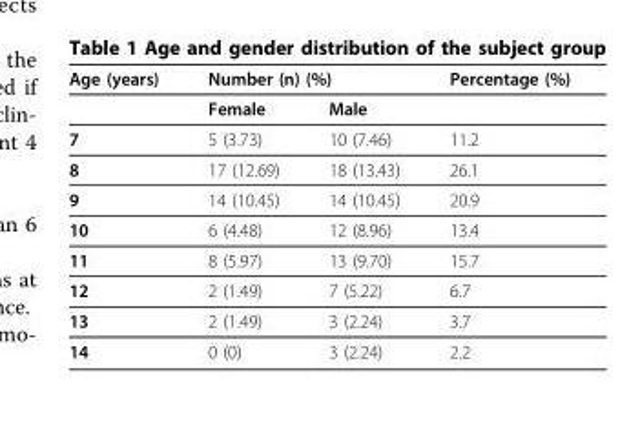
<table><thead><tr><td rowspan="2">Age (years)</td><td colspan="2">Number (n) (%)</td><td rowspan="2">Percentage (%)</td></tr><tr><td>Female</td><td>Male</td></tr></thead><tbody><tr><td>7</td><td>5 (3.73)</td><td>10 (7.46)</td><td>11.2</td></tr><tr><td>8</td><td>17 (12.69)</td><td>18 (13.43)</td><td>26.1</td></tr><tr><td>9</td><td>14 (10.45)</td><td>14 (10.45)</td><td>20.9</td></tr><tr><td>10</td><td>6 (4.48)</td><td>12 (8.96)</td><td>13.4</td></tr><tr><td>11</td><td>8 (5.97)</td><td>13 (9.70)</td><td>15.7</td></tr><tr><td>12</td><td>2 (1.49)</td><td>7 (5.22)</td><td>6.7</td></tr><tr><td>13</td><td>2 (1.49)</td><td>3 (2.24)</td><td>3.7</td></tr><tr><td>14</td><td>0 (0)</td><td>3 (2.24)</td><td>2.2</td></tr></tbody></table>